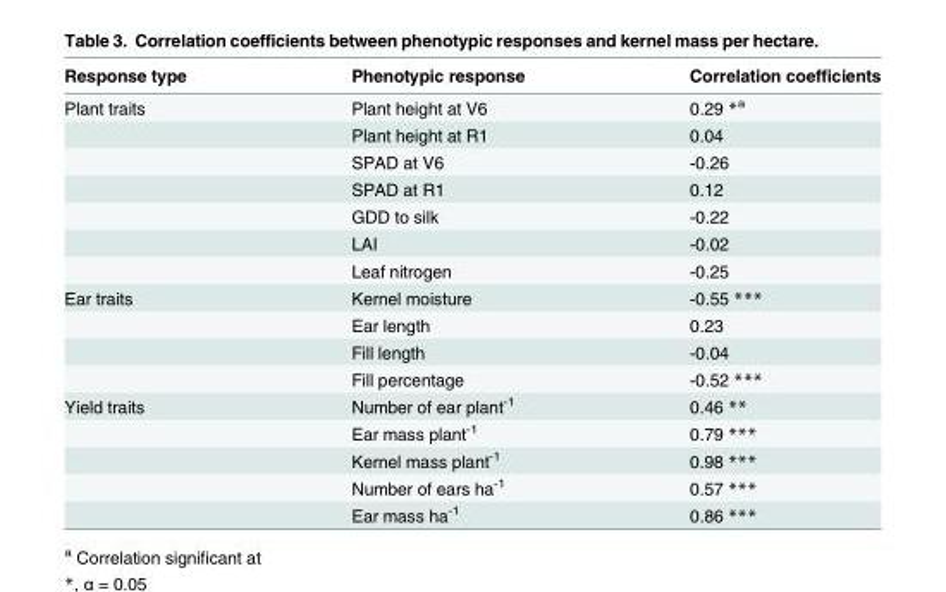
<table><thead><tr><td>Response type</td><td>Phenotypic response</td><td>Correlation coefficients</td></tr></thead><tbody><tr><td rowspan="7">Plant traits</td><td>Plant height at V6</td><td>0.29 *<sup>a</sup></td></tr><tr><td>Plant height at R1</td><td>0.04</td></tr><tr><td>SPAD at V6</td><td>-0.26</td></tr><tr><td>SPAD at R1</td><td>0.12</td></tr><tr><td>GDD to silk</td><td>-0.22</td></tr><tr><td>LAI</td><td>-0.02</td></tr><tr><td>Leaf nitrogen</td><td>-0.25</td></tr><tr><td rowspan="4">Ear traits</td><td>Kernel moisture</td><td>-0.55 ***</td></tr><tr><td>Ear length</td><td>0.23</td></tr><tr><td>Fill length</td><td>-0.04</td></tr><tr><td>Fill percentage</td><td>-0.52 ***</td></tr><tr><td rowspan="5">Yield traits</td><td>Number of ear plant<sup>-1</sup></td><td>0.46 **</td></tr><tr><td>Ear mass plant<sup>-1</sup></td><td>0.79 ***</td></tr><tr><td>Kernel mass plant<sup>-1</sup></td><td>0.98 ***</td></tr><tr><td>Number of ears ha<sup>-1</sup></td><td>0.57 ***</td></tr><tr><td>Ear mass ha<sup>-1</sup></td><td>0.86 ***</td></tr></tbody></table>